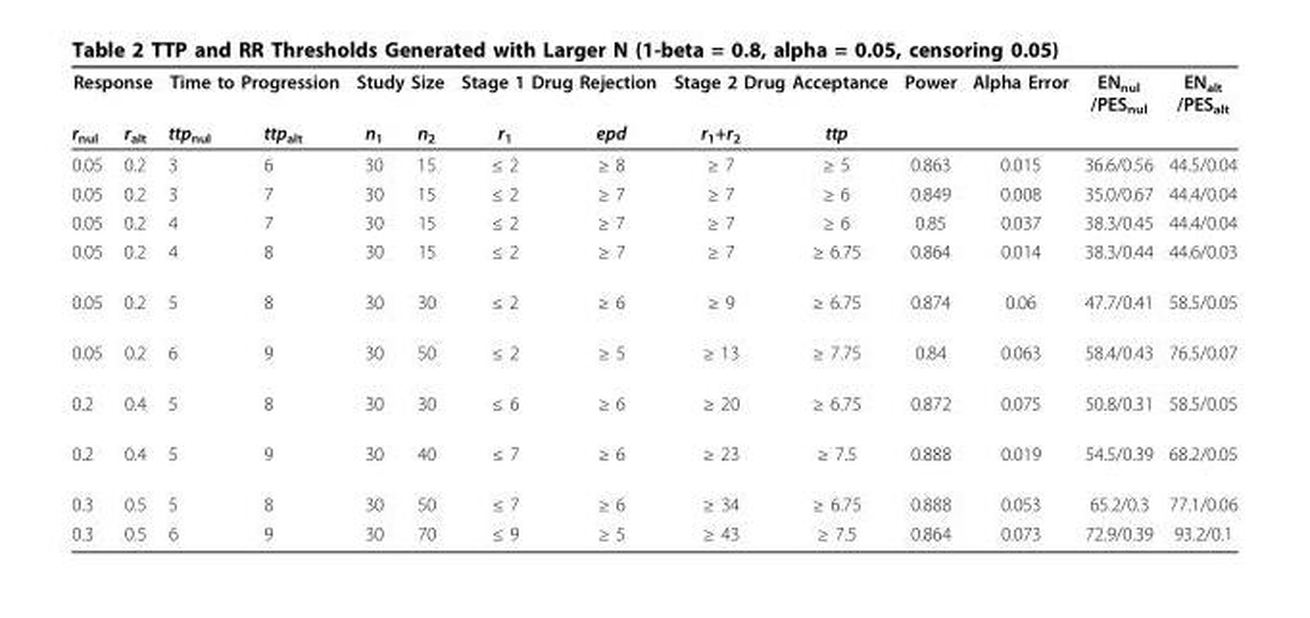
<table><thead><tr><td colspan="2">Response</td><td colspan="2">Time to Progression</td><td colspan="2">Study Size</td><td colspan="2">Stage 1 Drug Rejection</td><td colspan="2">Stage 2 Drug Acceptance</td><td rowspan="2">Power</td><td rowspan="2">Alpha Error</td><td rowspan="2">EN<sub>nul</sub> /PES<sub>nul</sub></td><td rowspan="2">EN<sub>alt</sub> /PES<sub>alt</sub></td></tr><tr><td>r<sub>nul</sub></td><td>r<sub>alt</sub></td><td>ttp<sub>nul</sub></td><td>ttp<sub>alt</sub></td><td>n<sub>1</sub></td><td>n<sub>2</sub></td><td>r<sub>1</sub></td><td>epd</td><td>r<sub>1</sub>+r<sub>2</sub></td><td>ttp</td></tr></thead><tbody><tr><td>0.05</td><td>0.2</td><td>3</td><td>6</td><td>30</td><td>15</td><td>≤ 2</td><td>≥ 8</td><td>≥ 7</td><td>≥ 5</td><td>0.863</td><td>0.015</td><td>36.6/0.56</td><td>44.5/0.04</td></tr><tr><td>0.05</td><td>0.2</td><td>3</td><td>7</td><td>30</td><td>15</td><td>≤ 2</td><td>≥ 7</td><td>≥ 7</td><td>≥ 6</td><td>0.849</td><td>0.008</td><td>35.0/0.67</td><td>44.4/0.04</td></tr><tr><td>0.05</td><td>0.2</td><td>4</td><td>7</td><td>30</td><td>15</td><td>≤ 2</td><td>≥ 7</td><td>≥ 7</td><td>≥ 6</td><td>0.85</td><td>0.037</td><td>38.3/0.45</td><td>44.4/0.04</td></tr><tr><td>0.05</td><td>0.2</td><td>4</td><td>8</td><td>30</td><td>15</td><td>≤ 2</td><td>≥ 7</td><td>≥ 7</td><td>≥ 6.75</td><td>0.864</td><td>0.014</td><td>38.3/0.44</td><td>44.6/0.03</td></tr><tr><td>0.05</td><td>0.2</td><td>5</td><td>8</td><td>30</td><td>30</td><td>≤ 2</td><td>≥ 6</td><td>≥ 9</td><td>≥ 6.75</td><td>0.874</td><td>0.06</td><td>47.7/0.41</td><td>58.5/0.05</td></tr><tr><td>0.05</td><td>0.2</td><td>6</td><td>9</td><td>30</td><td>50</td><td>≤ 2</td><td>≥ 5</td><td>≥ 13</td><td>≥ 7.75</td><td>0.84</td><td>0.063</td><td>58.4/0.43</td><td>76.5/0.07</td></tr><tr><td>0.2</td><td>0.4</td><td>5</td><td>8</td><td>30</td><td>30</td><td>≤ 6</td><td>≥ 6</td><td>≥ 20</td><td>≥ 6.75</td><td>0.872</td><td>0.075</td><td>50.8/0.31</td><td>58.5/0.05</td></tr><tr><td>0.2</td><td>0.4</td><td>5</td><td>9</td><td>30</td><td>40</td><td>≤ 7</td><td>≥ 6</td><td>≥ 23</td><td>≥ 7.5</td><td>0.888</td><td>0.019</td><td>54.5/0.39</td><td>68.2/0.05</td></tr><tr><td>0.3</td><td>0.5</td><td>5</td><td>8</td><td>30</td><td>50</td><td>≤ 7</td><td>≥ 6</td><td>≥ 34</td><td>≥ 6.75</td><td>0.888</td><td>0.053</td><td>65.2/0.3</td><td>77.1/0.06</td></tr><tr><td>0.3</td><td>0.5</td><td>6</td><td>9</td><td>30</td><td>70</td><td>≤ 9</td><td>≥ 5</td><td>≥ 43</td><td>≥ 7.5</td><td>0.864</td><td>0.073</td><td>72.9/0.39</td><td>93.2/0.1</td></tr></tbody></table>